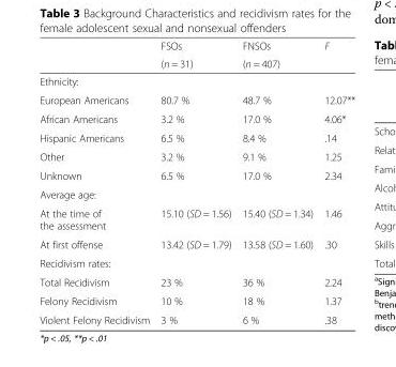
<table><thead><tr><td rowspan="2"></td><td rowspan="2">FSOs (n = 31)</td><td rowspan="2">FNSOs (n = 407)</td><td rowspan="2">F</td></tr><tr></tr></thead><tbody><tr><td colspan="4">Ethnicity:</td></tr><tr><td>European Americans</td><td>80.7 %</td><td>48.7 %</td><td>12.07**</td></tr><tr><td>African Americans</td><td>3.2 %</td><td>17.0 %</td><td>4.06*</td></tr><tr><td>Hispanic Americans</td><td>6.5 %</td><td>8.4 %</td><td>.14</td></tr><tr><td>Other</td><td>3.2 %</td><td>9.1 %</td><td>1.25</td></tr><tr><td>Unknown</td><td>6.5 %</td><td>17.0 %</td><td>2.34</td></tr><tr><td colspan="4">Average age:</td></tr><tr><td>At the time of the assessment</td><td>15.10 (SD = 1.56)</td><td>15.40 (SD = 1.34)</td><td>1.46</td></tr><tr><td>At first offense</td><td>13.42 (SD = 1.79)</td><td>13.58 (SD = 1.60)</td><td>.30</td></tr><tr><td colspan="4">Recidivism rates:</td></tr><tr><td>Total Recidivism</td><td>23 %</td><td>36 %</td><td>2.24</td></tr><tr><td>Felony Recidivism</td><td>10 %</td><td>18 %</td><td>1.37</td></tr><tr><td>Violent Felony Recidivism</td><td>3 %</td><td>6 %</td><td>.38</td></tr></tbody></table>